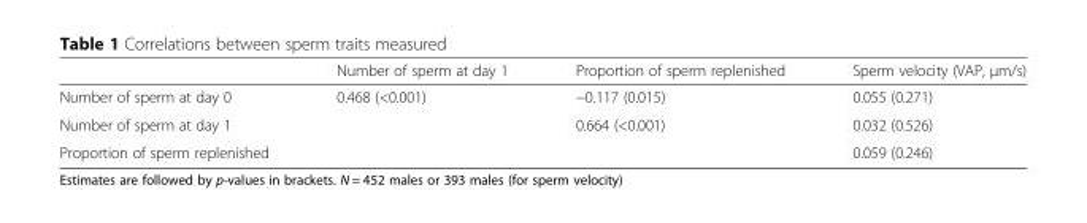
<table><thead><tr><td></td><td>Number of sperm at day 1</td><td>Proportion of sperm replenished</td><td>Sperm velocity (VAP, μm/s)</td></tr></thead><tbody><tr><td>Number of sperm at day 0</td><td>0.468 (&lt;0.001)</td><td>−0.117 (0.015)</td><td>0.055 (0.271)</td></tr><tr><td>Number of sperm at day 1</td><td></td><td>0.664 (&lt;0.001)</td><td>0.032 (0.526)</td></tr><tr><td>Proportion of sperm replenished</td><td></td><td></td><td>0.059 (0.246)</td></tr></tbody></table>